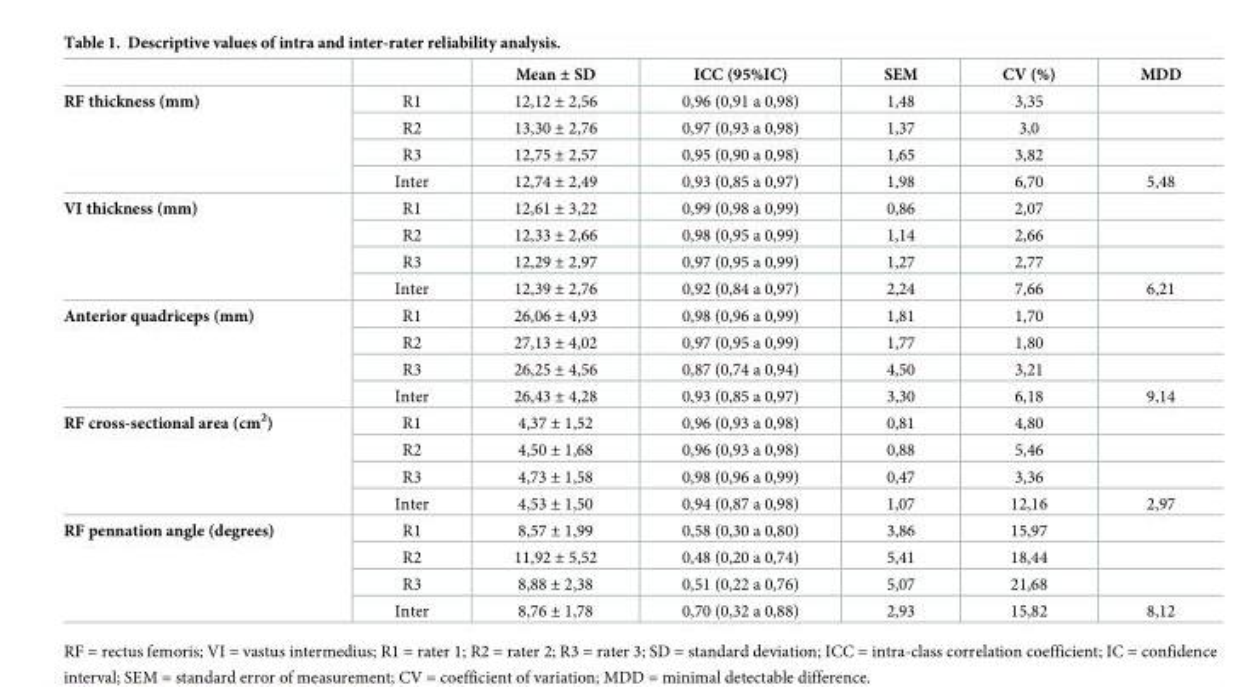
<table><thead><tr><td></td><td></td><td>Mean ± SD</td><td>ICC (95%IC)</td><td>SEM</td><td>CV (%)</td><td>MDD</td></tr></thead><tbody><tr><td rowspan="4">RF thickness (mm)</td><td>R1</td><td>12,12 ± 2,56</td><td>0,96 (0,91 a 0,98)</td><td>1,48</td><td>3,35</td><td></td></tr><tr><td>R2</td><td>13,30 ± 2,76</td><td>0,97 (0,93 a 0,98)</td><td>1,37</td><td>3,0</td><td></td></tr><tr><td>R3</td><td>12,75 ± 2,57</td><td>0,95 (0,90 a 0,98)</td><td>1,65</td><td>3,82</td><td></td></tr><tr><td>Inter</td><td>12,74 ± 2,49</td><td>0,93 (0,85 a 0,97)</td><td>1,98</td><td>6,70</td><td>5,48</td></tr><tr><td rowspan="4">VI thickness (mm)</td><td>R1</td><td>12,61 ± 3,22</td><td>0,99 (0,98 a 0,99)</td><td>0,86</td><td>2,07</td><td></td></tr><tr><td>R2</td><td>12,33 ± 2,66</td><td>0,98 (0,95 a 0,99)</td><td>1,14</td><td>2,66</td><td></td></tr><tr><td>R3</td><td>12,29 ± 2,97</td><td>0,97 (0,95 a 0,99)</td><td>1,27</td><td>2,77</td><td></td></tr><tr><td>Inter</td><td>12,39 ± 2,76</td><td>0,92 (0,84 a 0,97)</td><td>2,24</td><td>7,66</td><td>6,21</td></tr><tr><td rowspan="4">Anterior quadriceps (mm)</td><td>R1</td><td>26,06 ± 4,93</td><td>0,98 (0,96 a 0,99)</td><td>1,81</td><td>1,70</td><td></td></tr><tr><td>R2</td><td>27,13 ± 4,02</td><td>0,97 (0,95 a 0,99)</td><td>1,77</td><td>1,80</td><td></td></tr><tr><td>R3</td><td>26,25 ± 4,56</td><td>0,87 (0,74 a 0,94)</td><td>4,50</td><td>3,21</td><td></td></tr><tr><td>Inter</td><td>26,43 ± 4,28</td><td>0,93 (0,85 a 0,97)</td><td>3,30</td><td>6,18</td><td>9,14</td></tr><tr><td rowspan="4">RF cross-sectional area (cm<sup>2</sup>)</td><td>R1</td><td>4,37 ± 1,52</td><td>0,96 (0,93 a 0,98)</td><td>0,81</td><td>4,80</td><td></td></tr><tr><td>R2</td><td>4,50 ± 1,68</td><td>0,96 (0,93 a 0,98)</td><td>0,88</td><td>5,46</td><td></td></tr><tr><td>R3</td><td>4,73 ± 1,58</td><td>0,98 (0,96 a 0,99)</td><td>0,47</td><td>3,36</td><td></td></tr><tr><td>Inter</td><td>4,53 ± 1,50</td><td>0,94 (0,87 a 0,98)</td><td>1,07</td><td>12,16</td><td>2,97</td></tr><tr><td rowspan="4">RF pennation angle (degrees)</td><td>R1</td><td>8,57 ± 1,99</td><td>0,58 (0,30 a 0,80)</td><td>3,86</td><td>15,97</td><td></td></tr><tr><td>R2</td><td>11,92 ± 5,52</td><td>0,48 (0,20 a 0,74)</td><td>5,41</td><td>18,44</td><td></td></tr><tr><td>R3</td><td>8,88 ± 2,38</td><td>0,51 (0,22 a 0,76)</td><td>5,07</td><td>21,68</td><td></td></tr><tr><td>Inter</td><td>8,76 ± 1,78</td><td>0,70 (0,32 a 0,88)</td><td>2,93</td><td>15,82</td><td>8,12</td></tr></tbody></table>